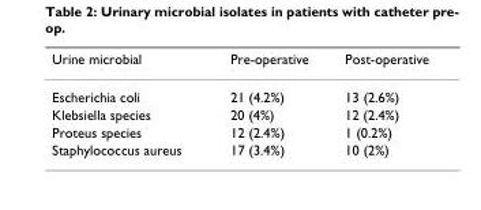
<table><thead><tr><td>Urine microbial</td><td>Pre-operative</td><td>Post-operative</td></tr></thead><tbody><tr><td>Escherichia coli</td><td>21 (4.2%)</td><td>13 (2.6%)</td></tr><tr><td>Klebsiella species</td><td>20 (4%)</td><td>12 (2.4%)</td></tr><tr><td>Proteus species</td><td>12 (2.4%)</td><td>1 (0.2%)</td></tr><tr><td>Staphylococcus aureus</td><td>17 (3.4%)</td><td>10 (2%)</td></tr></tbody></table>